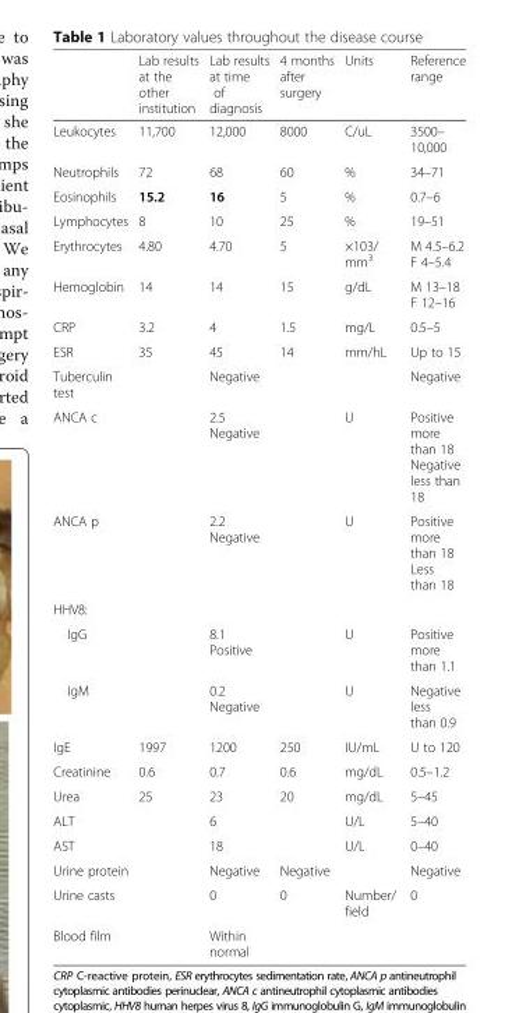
<table><thead><tr><td></td><td>Lab results at the other institution</td><td>Lab results at time of diagnosis</td><td>4 months after surgery</td><td>Units</td><td>Reference range</td></tr></thead><tbody><tr><td>Leukocytes</td><td>11,700</td><td>12,000</td><td>8000</td><td>C/uL</td><td>3500– 10,000</td></tr><tr><td>Neutrophils</td><td>72</td><td>68</td><td>60</td><td>%</td><td>34–71</td></tr><tr><td>Eosinophils</td><td>15.2</td><td>16</td><td>5</td><td>%</td><td>0.7–6</td></tr><tr><td>Lymphocytes</td><td>8</td><td>10</td><td>25</td><td>%</td><td>19–51</td></tr><tr><td>Erythrocytes</td><td>4.80</td><td>4.70</td><td>5</td><td>×103/ mm<sup>3</sup></td><td>M 4.5–6.2 F 4–5.4</td></tr><tr><td>Hemoglobin</td><td>14</td><td>14</td><td>15</td><td>g/dL</td><td>M 13–18 F 12–16</td></tr><tr><td>CRP</td><td>3.2</td><td>4</td><td>1.5</td><td>mg/L</td><td>0.5–5</td></tr><tr><td>ESR</td><td>35</td><td>45</td><td>14</td><td>mm/hL</td><td>Up to 15</td></tr><tr><td>Tuberculin test</td><td></td><td>Negative</td><td></td><td></td><td>Negative</td></tr><tr><td>ANCA c</td><td></td><td>2.5 Negative</td><td></td><td>U</td><td>Positive more than 18 Negative less than 18</td></tr><tr><td>ANCA p</td><td></td><td>2.2 Negative</td><td></td><td>U</td><td>Positive more than 18 Less than 18</td></tr><tr><td colspan="6">HHV8:</td></tr><tr><td>IgG</td><td></td><td>8.1 Positive</td><td></td><td>U</td><td>Positive more than 1.1</td></tr><tr><td>IgM</td><td></td><td>0.2 Negative</td><td></td><td>U</td><td>Negative less than 0.9</td></tr><tr><td>IgE</td><td>1997</td><td>1200</td><td>250</td><td>IU/mL</td><td>U to 120</td></tr><tr><td>Creatinine</td><td>0.6</td><td>0.7</td><td>0.6</td><td>mg/dL</td><td>0.5–1.2</td></tr><tr><td>Urea</td><td>25</td><td>23</td><td>20</td><td>mg/dL</td><td>5–45</td></tr><tr><td>ALT</td><td></td><td>6</td><td></td><td>U/L</td><td>5–40</td></tr><tr><td>AST</td><td></td><td>18</td><td></td><td>U/L</td><td>0–40</td></tr><tr><td>Urine protein</td><td></td><td>Negative</td><td>Negative</td><td></td><td>Negative</td></tr><tr><td>Urine casts</td><td></td><td>0</td><td>0</td><td>Number/ field</td><td>0</td></tr><tr><td>Blood film</td><td></td><td>Within normal</td><td></td><td></td><td></td></tr></tbody></table>